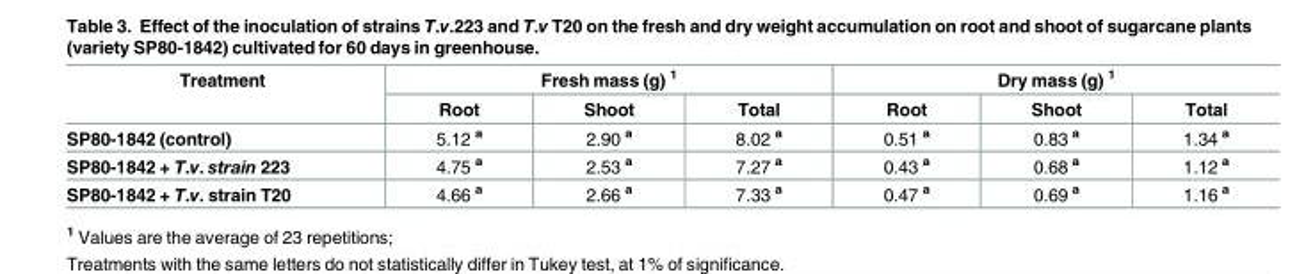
<table><thead><tr><td rowspan="2">Treatment</td><td colspan="3">Fresh mass (g) <sup>1</sup></td><td colspan="3">Dry mass (g) <sup>1</sup></td></tr><tr><td>Root</td><td>Shoot</td><td>Total</td><td>Root</td><td>Shoot</td><td>Total</td></tr></thead><tbody><tr><td>SP80-1842 (control)</td><td>5.12 <sup>a</sup></td><td>2.90 <sup>a</sup></td><td>8.02 <sup>a</sup></td><td>0.51 <sup>a</sup></td><td>0.83 <sup>a</sup></td><td>1.34 <sup>a</sup></td></tr><tr><td>SP80-1842 + T.v. strain 223</td><td>4.75 <sup>a</sup></td><td>2.53 <sup>a</sup></td><td>7.27 <sup>a</sup></td><td>0.43 <sup>a</sup></td><td>0.68 <sup>a</sup></td><td>1.12 <sup>a</sup></td></tr><tr><td>SP80-1842 + T.v. strain T20</td><td>4.66 <sup>a</sup></td><td>2.66 <sup>a</sup></td><td>7.33 <sup>a</sup></td><td>0.47 <sup>a</sup></td><td>0.69 <sup>a</sup></td><td>1.16 <sup>a</sup></td></tr></tbody></table>